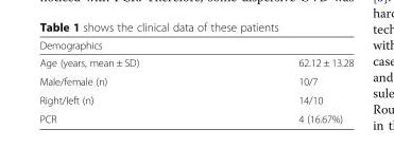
<table><thead><tr><td colspan="2">Demographics</td></tr><tr><td>Age (years, mean ± SD)</td><td>62.12 ± 13.28</td></tr></thead><tbody><tr><td>Male/female (n)</td><td>10/7</td></tr><tr><td>Right/left (n)</td><td>14/10</td></tr><tr><td>PCR</td><td>4 (16.67%)</td></tr></tbody></table>